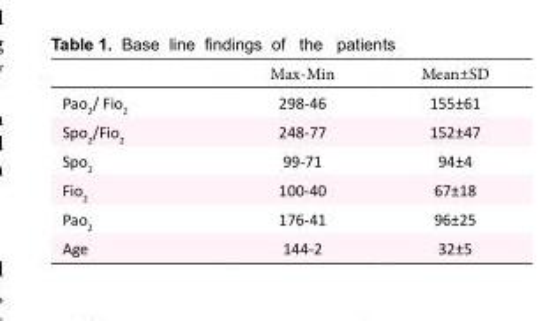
<table><thead><tr><td></td><td>Max-Min</td><td>Mean±SD</td></tr></thead><tbody><tr><td>Pao<sub>2</sub>/ Fio<sub>2</sub></td><td>298-46</td><td>155±61</td></tr><tr><td>Spo<sub>2</sub>/Fio<sub>2</sub></td><td>248-77</td><td>152±47</td></tr><tr><td>Spo<sub>2</sub></td><td>99-71</td><td>94±4</td></tr><tr><td>Fio<sub>2</sub></td><td>100-40</td><td>67±18</td></tr><tr><td>Pao<sub>2</sub></td><td>176-41</td><td>96±25</td></tr><tr><td>Age</td><td>144-2</td><td>32±5</td></tr></tbody></table>